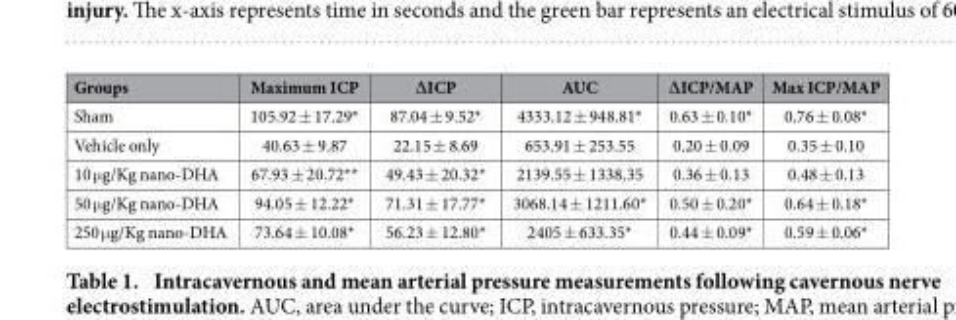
<table><thead><tr><td>Groups</td><td>Maximum ICP</td><td>∆ICP</td><td>AUC</td><td>∆ICP/MAP</td><td>Max ICP/MAP</td></tr></thead><tbody><tr><td>Sham</td><td>105.92 ± 17.29*</td><td>87.04 ± 9.52*</td><td>4333.12 ± 948.81*</td><td>0.63 ± 0.10*</td><td>0.76 ± 0.08*</td></tr><tr><td>Vehicle only</td><td>40.63 ± 9.87</td><td>22.15 ± 8.69</td><td>653.91 ± 253.55</td><td>0.20 ± 0.09</td><td>0.35 ± 0.10</td></tr><tr><td>10 μ g/Kg nano-DHA</td><td>67.93 ± 20.72**</td><td>49.43 ± 20.32*</td><td>2139.55 ± 1338.35</td><td>0.36 ± 0.13</td><td>0.48 ± 0.13</td></tr><tr><td>50 μ g/Kg nano-DHA</td><td>94.05 ± 12.22*</td><td>71.31 ± 17.77*</td><td>3068.14 ± 1211.60*</td><td>0.50 ± 0.20*</td><td>0.64 ± 0.18*</td></tr><tr><td>250 μ g/Kg nano-DHA</td><td>73.64 ± 10.08*</td><td>56.23 ± 12.80*</td><td>2405 ± 633.35*</td><td>0.44 ± 0.09*</td><td>0.59 ± 0.06*</td></tr></tbody></table>